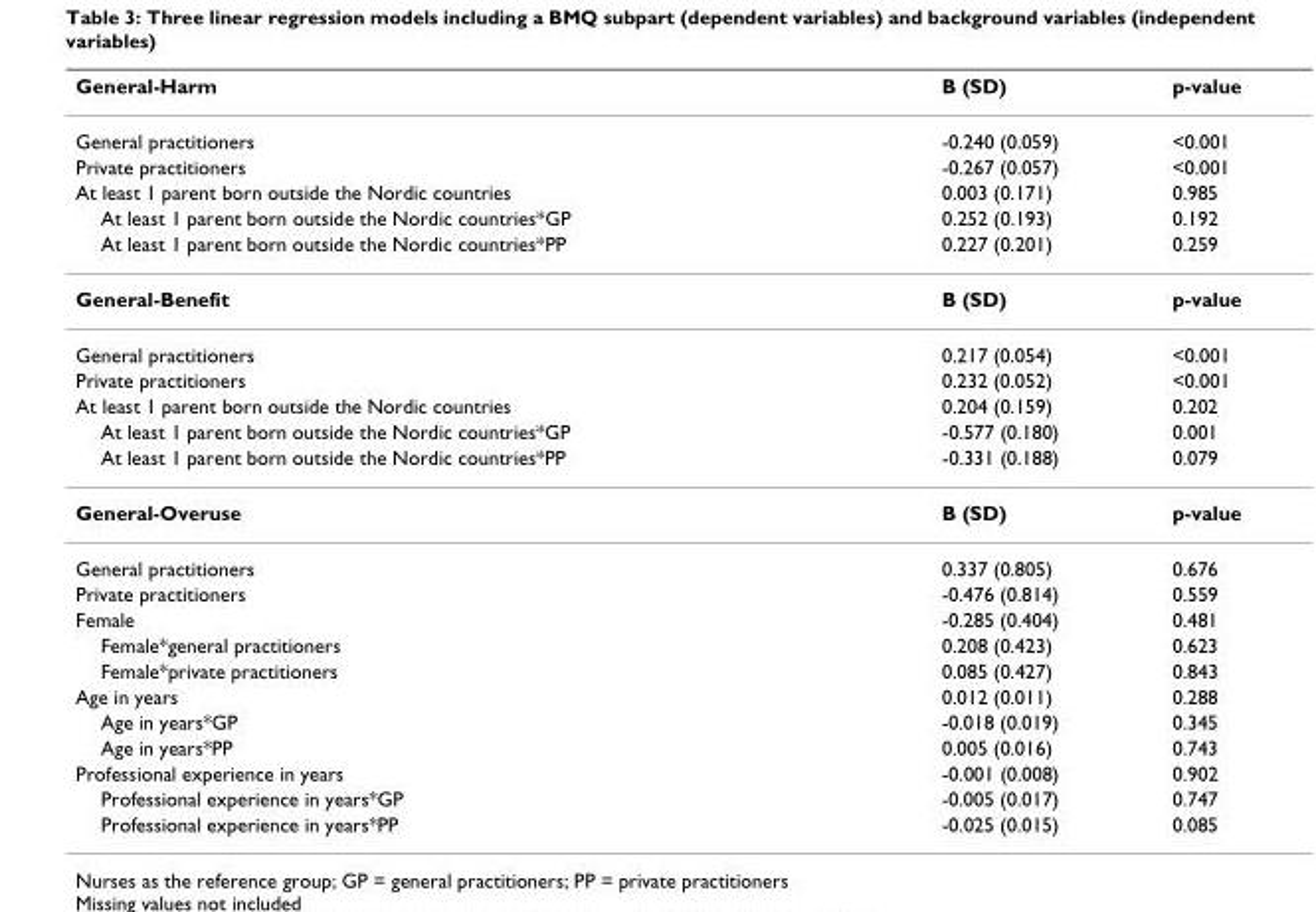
<table><thead><tr><td>General-Harm</td><td>B (SD)</td><td>p-value</td></tr></thead><tbody><tr><td>General practitioners</td><td>-0.240 (0.059)</td><td>&lt;0.001</td></tr><tr><td>Private practitioners</td><td>-0.267 (0.057)</td><td>&lt;0.001</td></tr><tr><td>At least 1 parent born outside the Nordic countries</td><td>0.003 (0.171)</td><td>0.985</td></tr><tr><td>At least 1 parent born outside the Nordic countries*GP</td><td>0.252 (0.193)</td><td>0.192</td></tr><tr><td>At least 1 parent born outside the Nordic countries*PP</td><td>0.227 (0.201)</td><td>0.259</td></tr><tr><td>General-Benefit</td><td>B (SD)</td><td>p-value</td></tr><tr><td>General practitioners</td><td>0.217 (0.054)</td><td>&lt;0.001</td></tr><tr><td>Private practitioners</td><td>0.232 (0.052)</td><td>&lt;0.001</td></tr><tr><td>At least 1 parent born outside the Nordic countries</td><td>0.204 (0.159)</td><td>0.202</td></tr><tr><td>At least 1 parent born outside the Nordic countries*GP</td><td>-0.577 (0.180)</td><td>0.001</td></tr><tr><td>At least 1 parent born outside the Nordic countries*PP</td><td>-0.331 (0.188)</td><td>0.079</td></tr><tr><td>General-Overuse</td><td>B (SD)</td><td>p-value</td></tr><tr><td>General practitioners</td><td>0.337 (0.805)</td><td>0.676</td></tr><tr><td>Private practitioners</td><td>-0.476 (0.814)</td><td>0.559</td></tr><tr><td>Female</td><td>-0.285 (0.404)</td><td>0.481</td></tr><tr><td>Female*general practitioners</td><td>0.208 (0.423)</td><td>0.623</td></tr><tr><td>Female*private practitioners</td><td>0.085 (0.427)</td><td>0.843</td></tr><tr><td>Age in years</td><td>0.012 (0.011)</td><td>0.288</td></tr><tr><td>Age in years*GP</td><td>-0.018 (0.019)</td><td>0.345</td></tr><tr><td>Age in years*PP</td><td>0.005 (0.016)</td><td>0.743</td></tr><tr><td>Professional experience in years</td><td>-0.001 (0.008)</td><td>0.902</td></tr><tr><td>Professional experience in years*GP</td><td>-0.005 (0.017)</td><td>0.747</td></tr><tr><td>Professional experience in years*PP</td><td>-0.025 (0.015)</td><td>0.085</td></tr></tbody></table>